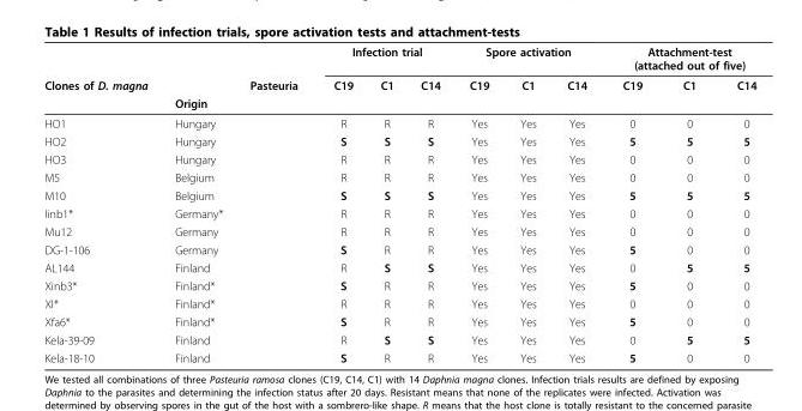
<table><thead><tr><td rowspan="3">Clones of D. magna</td><td rowspan="3">Origin</td><td rowspan="3">Pasteuria</td><td colspan="3">Infection trial</td><td colspan="3">Spore activation</td><td colspan="3">Attachment-test (attached out of five)</td></tr><tr><td rowspan="2">C19</td><td rowspan="2">C1</td><td rowspan="2">C14</td><td rowspan="2">C19</td><td rowspan="2">C1</td><td rowspan="2">C14</td><td rowspan="2">C19</td><td rowspan="2">C1</td><td rowspan="2">C14</td></tr><tr></tr></thead><tbody><tr><td>HO1</td><td>Hungary</td><td></td><td>R</td><td>R</td><td>R</td><td>Yes</td><td>Yes</td><td>Yes</td><td>0</td><td>0</td><td>0</td></tr><tr><td>HO2</td><td>Hungary</td><td></td><td>S</td><td>S</td><td>S</td><td>Yes</td><td>Yes</td><td>Yes</td><td>5</td><td>5</td><td>5</td></tr><tr><td>HO3</td><td>Hungary</td><td></td><td>R</td><td>R</td><td>R</td><td>Yes</td><td>Yes</td><td>Yes</td><td>0</td><td>0</td><td>0</td></tr><tr><td>M5</td><td>Belgium</td><td></td><td>R</td><td>R</td><td>R</td><td>Yes</td><td>Yes</td><td>Yes</td><td>0</td><td>0</td><td>0</td></tr><tr><td>M10</td><td>Belgium</td><td></td><td>S</td><td>S</td><td>S</td><td>Yes</td><td>Yes</td><td>Yes</td><td>5</td><td>5</td><td>5</td></tr><tr><td>Iinb1*</td><td>Germany*</td><td></td><td>R</td><td>R</td><td>R</td><td>Yes</td><td>Yes</td><td>Yes</td><td>0</td><td>0</td><td>0</td></tr><tr><td>Mu12</td><td>Germany</td><td></td><td>R</td><td>R</td><td>R</td><td>Yes</td><td>Yes</td><td>Yes</td><td>0</td><td>0</td><td>0</td></tr><tr><td>DG-1-106</td><td>Germany</td><td></td><td>S</td><td>R</td><td>R</td><td>Yes</td><td>Yes</td><td>Yes</td><td>5</td><td>0</td><td>0</td></tr><tr><td>AL144</td><td>Finland</td><td></td><td>R</td><td>S</td><td>S</td><td>Yes</td><td>Yes</td><td>Yes</td><td>0</td><td>5</td><td>5</td></tr><tr><td>Xinb3*</td><td>Finland*</td><td></td><td>S</td><td>R</td><td>R</td><td>Yes</td><td>Yes</td><td>Yes</td><td>5</td><td>0</td><td>0</td></tr><tr><td>XI*</td><td>Finland*</td><td></td><td>R</td><td>R</td><td>R</td><td>Yes</td><td>Yes</td><td>Yes</td><td>0</td><td>0</td><td>0</td></tr><tr><td>Xfa6*</td><td>Finland*</td><td></td><td>S</td><td>R</td><td>R</td><td>Yes</td><td>Yes</td><td>Yes</td><td>5</td><td>0</td><td>0</td></tr><tr><td>Kela-39-09</td><td>Finland</td><td></td><td>R</td><td>S</td><td>S</td><td>Yes</td><td>Yes</td><td>Yes</td><td>0</td><td>5</td><td>5</td></tr><tr><td>Kela-18-10</td><td>Finland</td><td></td><td>S</td><td>R</td><td>R</td><td>Yes</td><td>Yes</td><td>Yes</td><td>5</td><td>0</td><td>0</td></tr></tbody></table>